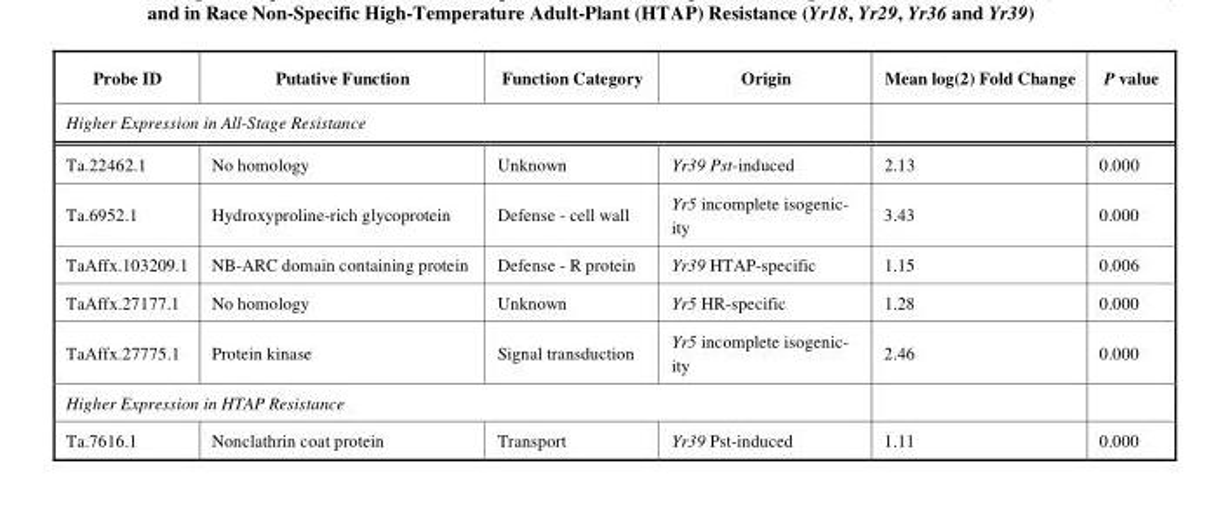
<table><thead><tr><td>Probe ID</td><td>Putative Function</td><td>Function Category</td><td>Origin</td><td>Mean log(2) Fold Change</td><td>P value</td></tr></thead><tbody><tr><td colspan="6">Higher Expression in All-Stage Resistance</td></tr><tr><td>Ta.22462.1</td><td>No homology</td><td>Unknown</td><td>Yr39 Pst-induced</td><td>2.13</td><td>0.000</td></tr><tr><td>Ta.6952.1</td><td>Hydroxyproline-rich glycoprotein</td><td>Defense - cell wall</td><td>Yr5 incomplete isogenic- ity</td><td>3.43</td><td>0.000</td></tr><tr><td>TaAffx.103209.1</td><td>NB-ARC domain containing protein</td><td>Defense - R protein</td><td>Yr39 HTAP-specific</td><td>1.15</td><td>0.006</td></tr><tr><td>TaAffx.27177.1</td><td>No homology</td><td>Unknown</td><td>Yr5 HR-specific</td><td>1.28</td><td>0.000</td></tr><tr><td>TaAffx.27775.1</td><td>Protein kinase</td><td>Signal transduction</td><td>Yr5 incomplete isogenic- ity</td><td>2.46</td><td>0.000</td></tr><tr><td colspan="6">Higher Expression in HTAP Resistance</td></tr><tr><td>Ta.7616.1</td><td>Nonclathrin coat protein</td><td>Transport</td><td>Yr39 Pst-induced</td><td>1.11</td><td>0.000</td></tr></tbody></table>